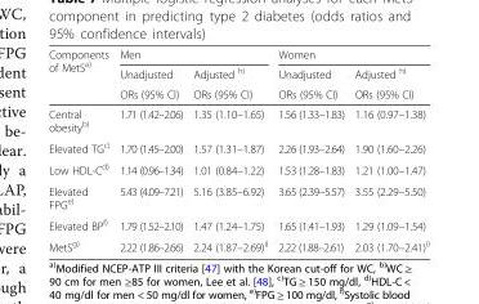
<table><thead><tr><td rowspan="3">Components of MetS<sup>a)</sup></td><td colspan="2">Men</td><td colspan="2">Women</td></tr><tr><td rowspan="2">Unadjusted ORs (95% CI)</td><td rowspan="2">Adjusted <sup>h)</sup> ORs (95% CI)</td><td rowspan="2">Unadjusted ORs (95% CI)</td><td rowspan="2">Adjusted <sup>h)</sup> ORs (95% CI)</td></tr><tr></tr></thead><tbody><tr><td>Central obesity<sup>b)</sup></td><td>1.71 (1.42–2.06)</td><td>1.35 (1.10–1.65)</td><td>1.56 (1.33–1.83)</td><td>1.16 (0.97–1.38)</td></tr><tr><td>Elevated TG<sup>c)</sup></td><td>1.70 (1.45–2.00)</td><td>1.57 (1.31–1.87)</td><td>2.26 (1.93–2.64)</td><td>1.90 (1.60–2.26)</td></tr><tr><td>Low HDL-C<sup>d)</sup></td><td>1.14 (0.96–1.34)</td><td>1.01 (0.84–1.22)</td><td>1.53 (1.28–1.83)</td><td>1.21 (1.00–1.47)</td></tr><tr><td>Elevated FPG<sup>e)</sup></td><td>5.43 (4.09–7.21)</td><td>5.16 (3.85–6.92)</td><td>3.65 (2.39–5.57)</td><td>3.55 (2.29–5.50)</td></tr><tr><td>Elevated BP<sup>f)</sup></td><td>1.79 (1.52–2.10)</td><td>1.47 (1.24–1.75)</td><td>1.65 (1.41–1.93)</td><td>1.29 (1.09–1.54)</td></tr><tr><td>MetS<sup>g)</sup></td><td>2.22 (1.86–2.66)</td><td>2.24 (1.87–2.69)<sup>i)</sup></td><td>2.22 (1.88–2.61)</td><td>2.03 (1.70–2.41)<sup>i)</sup></td></tr></tbody></table>